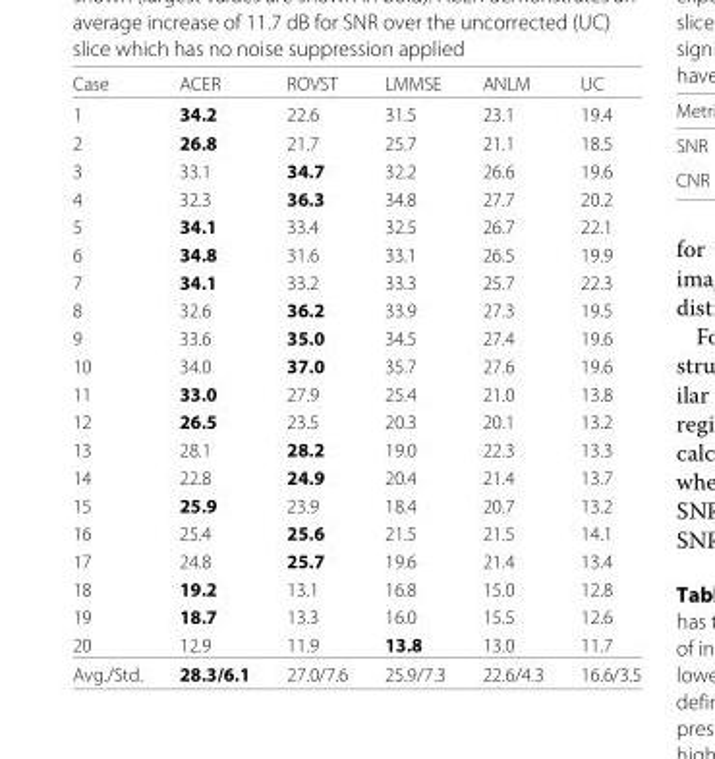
<table><thead><tr><td>Case</td><td>ACER</td><td>ROVST</td><td>LMMSE</td><td>ANLM</td><td>UC</td></tr></thead><tbody><tr><td>1</td><td>34.2</td><td>22.6</td><td>31.5</td><td>23.1</td><td>19.4</td></tr><tr><td>2</td><td>26.8</td><td>21.7</td><td>25.7</td><td>21.1</td><td>18.5</td></tr><tr><td>3</td><td>33.1</td><td>34.7</td><td>32.2</td><td>26.6</td><td>19.6</td></tr><tr><td>4</td><td>32.3</td><td>36.3</td><td>34.8</td><td>27.7</td><td>20.2</td></tr><tr><td>5</td><td>34.1</td><td>33.4</td><td>32.5</td><td>26.7</td><td>22.1</td></tr><tr><td>6</td><td>34.8</td><td>31.6</td><td>33.1</td><td>26.5</td><td>19.9</td></tr><tr><td>7</td><td>34.1</td><td>33.2</td><td>33.3</td><td>25.7</td><td>22.3</td></tr><tr><td>8</td><td>32.6</td><td>36.2</td><td>33.9</td><td>27.3</td><td>19.5</td></tr><tr><td>9</td><td>33.6</td><td>35.0</td><td>34.5</td><td>27.4</td><td>19.6</td></tr><tr><td>10</td><td>34.0</td><td>37.0</td><td>35.7</td><td>27.6</td><td>19.6</td></tr><tr><td>11</td><td>33.0</td><td>27.9</td><td>25.4</td><td>21.0</td><td>13.8</td></tr><tr><td>12</td><td>26.5</td><td>23.5</td><td>20.3</td><td>20.1</td><td>13.2</td></tr><tr><td>13</td><td>28.1</td><td>28.2</td><td>19.0</td><td>22.3</td><td>13.3</td></tr><tr><td>14</td><td>22.8</td><td>24.9</td><td>20.4</td><td>21.4</td><td>13.7</td></tr><tr><td>15</td><td>25.9</td><td>23.9</td><td>18.4</td><td>20.7</td><td>13.2</td></tr><tr><td>16</td><td>25.4</td><td>25.6</td><td>21.5</td><td>21.5</td><td>14.1</td></tr><tr><td>17</td><td>24.8</td><td>25.7</td><td>19.6</td><td>21.4</td><td>13.4</td></tr><tr><td>18</td><td>19.2</td><td>13.1</td><td>16.8</td><td>15.0</td><td>12.8</td></tr><tr><td>19</td><td>18.7</td><td>13.3</td><td>16.0</td><td>15.5</td><td>12.6</td></tr><tr><td>20</td><td>12.9</td><td>11.9</td><td>13.8</td><td>13.0</td><td>11.7</td></tr><tr><td>Avg./Std.</td><td>28.3/6.1</td><td>27.0/7.6</td><td>25.9/7.3</td><td>22.6/4.3</td><td>16.6/3.5</td></tr></tbody></table>